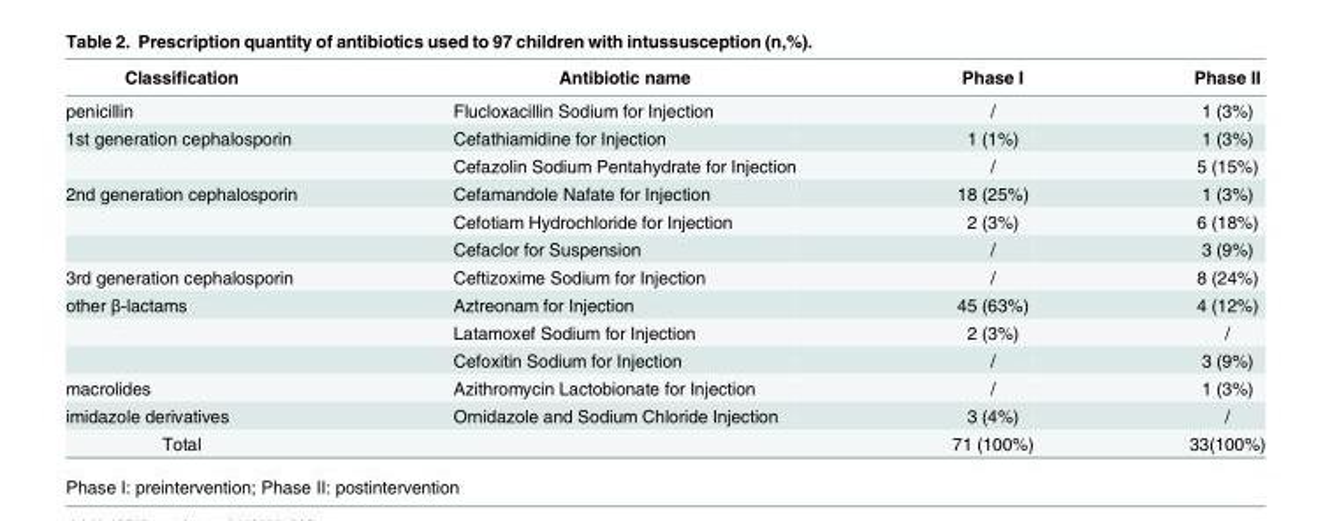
<table><thead><tr><td>Classification</td><td>Antibiotic name</td><td>Phase I</td><td>Phase II</td></tr></thead><tbody><tr><td>penicillin</td><td>Flucloxacillin Sodium for Injection</td><td>/</td><td>1 (3%)</td></tr><tr><td rowspan="2">1st generation cephalosporin</td><td>Cefathiamidine for Injection</td><td>1 (1%)</td><td>1 (3%)</td></tr><tr><td>Cefazolin Sodium Pentahydrate for Injection</td><td>/</td><td>5 (15%)</td></tr><tr><td rowspan="3">2nd generation cephalosporin</td><td>Cefamandole Nafate for Injection</td><td>18 (25%)</td><td>1 (3%)</td></tr><tr><td>Cefotiam Hydrochloride for Injection</td><td>2 (3%)</td><td>6 (18%)</td></tr><tr><td>Cefaclor for Suspension</td><td>/</td><td>3 (9%)</td></tr><tr><td>3rd generation cephalosporin</td><td>Ceftizoxime Sodium for Injection</td><td>/</td><td>8 (24%)</td></tr><tr><td rowspan="3">other β-lactams</td><td>Aztreonam for Injection</td><td>45 (63%)</td><td>4 (12%)</td></tr><tr><td>Latamoxef Sodium for Injection</td><td>2 (3%)</td><td>/</td></tr><tr><td>Cefoxitin Sodium for Injection</td><td>/</td><td>3 (9%)</td></tr><tr><td>macrolides</td><td>Azithromycin Lactobionate for Injection</td><td>/</td><td>1 (3%)</td></tr><tr><td>imidazole derivatives</td><td>Ornidazole and Sodium Chloride Injection</td><td>3 (4%)</td><td>/</td></tr><tr><td>Total</td><td></td><td>71 (100%)</td><td>33(100%)</td></tr></tbody></table>